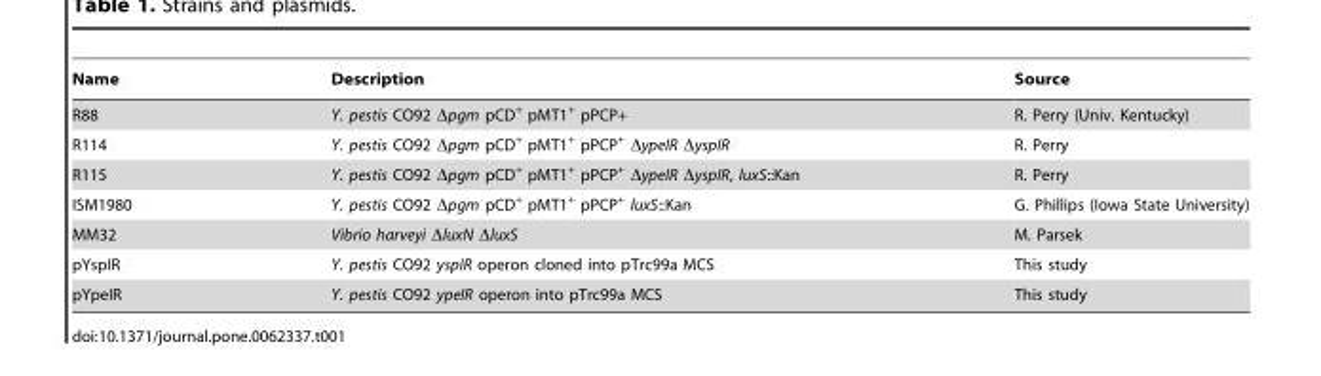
<table><thead><tr><td>Name</td><td>Description</td><td>Source</td></tr></thead><tbody><tr><td>R88</td><td>Y. pestis CO92 Δpgm pCD<sup>+</sup> pMT1<sup>+</sup> pPCP+</td><td>R. Perry (Univ. Kentucky)</td></tr><tr><td>R114</td><td>Y. pestis CO92 Δpgm pCD<sup>+</sup> pMT1<sup>+</sup> pPCP<sup>+</sup> ΔypeIR ΔyspIR</td><td>R. Perry</td></tr><tr><td>R115</td><td>Y. pestis CO92 Δpgm pCD<sup>+</sup> pMT1<sup>+</sup> pPCP<sup>+</sup> ΔypeIR ΔyspIR, luxS::Kan</td><td>R. Perry</td></tr><tr><td>ISM1980</td><td>Y. pestis CO92 Δpgm pCD<sup>+</sup> pMT1<sup>+</sup> pPCP<sup>+</sup> luxS::Kan</td><td>G. Phillips (Iowa State University)</td></tr><tr><td>MM32</td><td>Vibrio harveyi ΔluxN ΔluxS</td><td>M. Parsek</td></tr><tr><td>pYspIR</td><td>Y. pestis CO92 yspIR operon cloned into pTrc99a MCS</td><td>This study</td></tr><tr><td>pYpeIR</td><td>Y. pestis CO92 ypeIR operon into pTrc99a MCS</td><td>This study</td></tr></tbody></table>